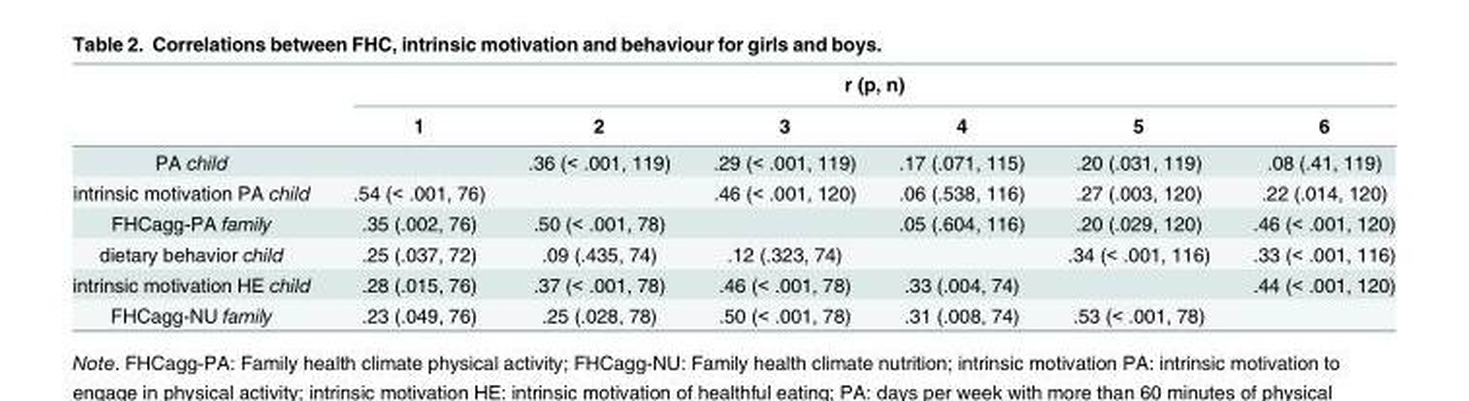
<table><thead><tr><td rowspan="2"></td><td colspan="6">r (p, n)</td></tr><tr><td>1</td><td>2</td><td>3</td><td>4</td><td>5</td><td>6</td></tr></thead><tbody><tr><td>PA child</td><td></td><td>.36 (&lt; .001, 119)</td><td>.29 (&lt; .001, 119)</td><td>.17 (.071, 115)</td><td>.20 (.031, 119)</td><td>.08 (.41, 119)</td></tr><tr><td>intrinsic motivation PA child</td><td>.54 (&lt; .001, 76)</td><td></td><td>.46 (&lt; .001, 120)</td><td>.06 (.538, 116)</td><td>.27 (.003, 120)</td><td>.22 (.014, 120)</td></tr><tr><td>FHCagg-PA family</td><td>.35 (.002, 76)</td><td>.50 (&lt; .001, 78)</td><td></td><td>.05 (.604, 116)</td><td>.20 (.029, 120)</td><td>.46 (&lt; .001, 120)</td></tr><tr><td>dietary behavior child</td><td>.25 (.037, 72)</td><td>.09 (.435, 74)</td><td>.12 (.323, 74)</td><td></td><td>.34 (&lt; .001, 116)</td><td>.33 (&lt; .001, 116)</td></tr><tr><td>intrinsic motivation HE child</td><td>.28 (.015, 76)</td><td>.37 (&lt; .001, 78)</td><td>.46 (&lt; .001, 78)</td><td>.33 (.004, 74)</td><td></td><td>.44 (&lt; .001, 120)</td></tr><tr><td>FHCagg-NU family</td><td>.23 (.049, 76)</td><td>.25 (.028, 78)</td><td>.50 (&lt; .001, 78)</td><td>.31 (.008, 74)</td><td>.53 (&lt; .001, 78)</td><td></td></tr></tbody></table>